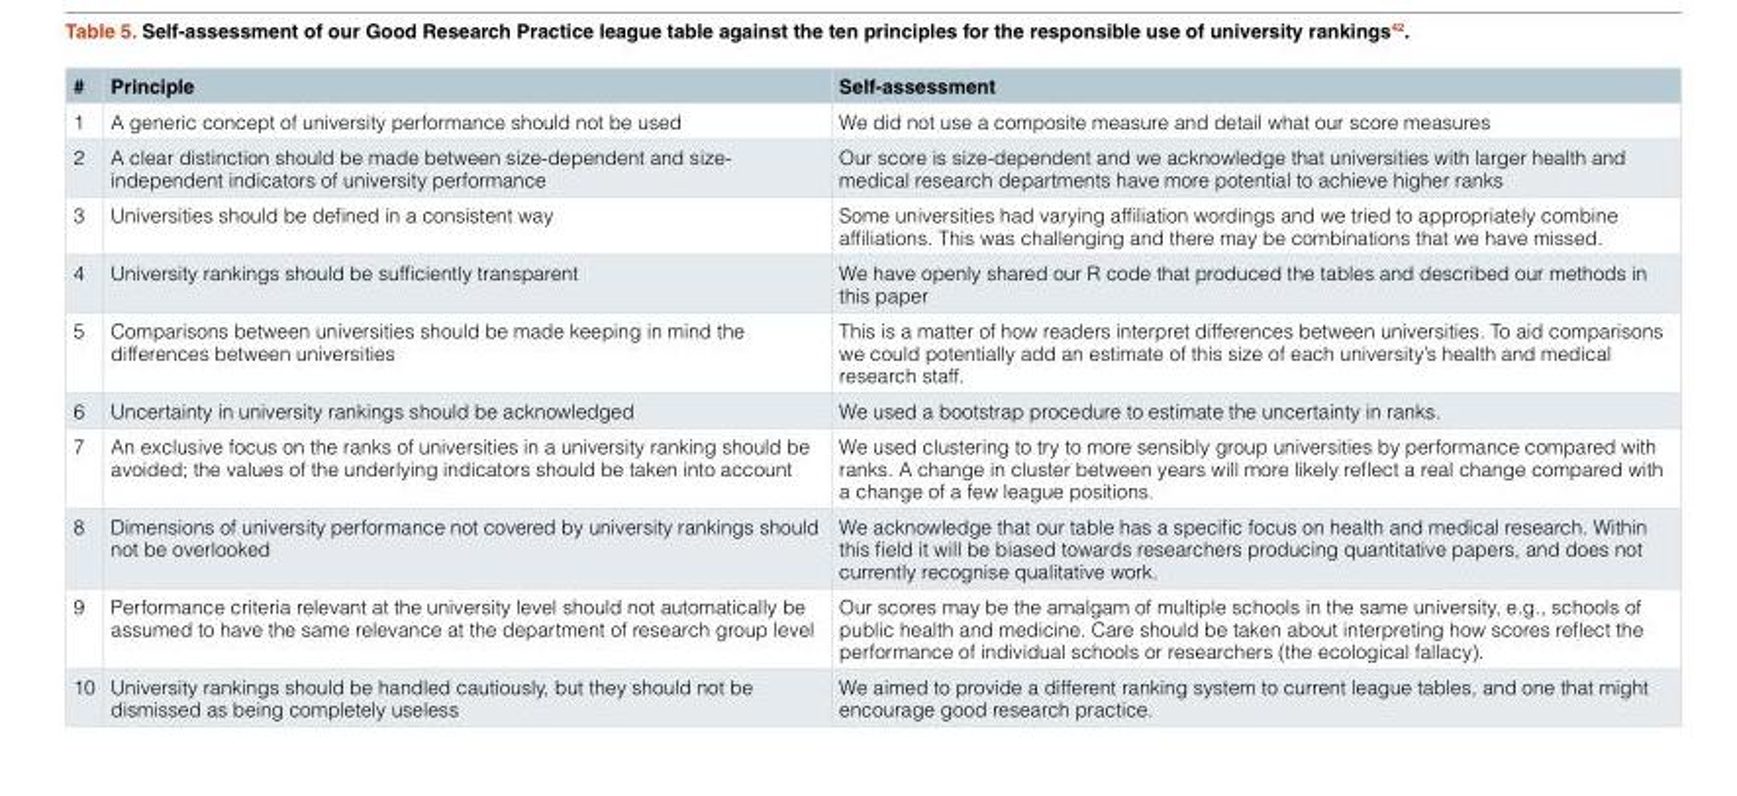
<table><thead><tr><td>#</td><td>Principle</td><td>Self-assessment</td></tr></thead><tbody><tr><td>1</td><td>A generic concept of university performance should not be used</td><td>We did not use a composite measure and detail what our score measures</td></tr><tr><td>2</td><td>A clear distinction should be made between size-dependent and size- independent indicators of university performance</td><td>Our score is size-dependent and we acknowledge that universities with larger health and medical research departments have more potential to achieve higher ranks</td></tr><tr><td>3</td><td>Universities should be defined in a consistent way</td><td>Some universities had varying affiliation wordings and we tried to appropriately combine affiliations. This was challenging and there may be combinations that we have missed.</td></tr><tr><td>4</td><td>University rankings should be sufficiently transparent</td><td>We have openly shared our R code that produced the tables and described our methods in this paper</td></tr><tr><td>5</td><td>Comparisons between universities should be made keeping in mind the differences between universities</td><td>This is a matter of how readers interpret differences between universities. To aid comparisons we could potentially add an estimate of this size of each university’s health and medical research staff.</td></tr><tr><td>6</td><td>Uncertainty in university rankings should be acknowledged</td><td>We used a bootstrap procedure to estimate the uncertainty in ranks.</td></tr><tr><td>7</td><td>An exclusive focus on the ranks of universities in a university ranking should be avoided; the values of the underlying indicators should be taken into account</td><td>We used clustering to try to more sensibly group universities by performance compared with ranks. A change in cluster between years will more likely reflect a real change compared with a change of a few league positions.</td></tr><tr><td>8</td><td>Dimensions of university performance not covered by university rankings should not be overlooked</td><td>We acknowledge that our table has a specific focus on health and medical research. Within this field it will be biased towards researchers producing quantitative papers, and does not currently recognise qualitative work.</td></tr><tr><td>9</td><td>Performance criteria relevant at the university level should not automatically be assumed to have the same relevance at the department of research group level</td><td>Our scores may be the amalgam of multiple schools in the same university, e.g., schools of public health and medicine. Care should be taken about interpreting how scores reflect the performance of individual schools or researchers (the ecological fallacy).</td></tr><tr><td>10</td><td>University rankings should be handled cautiously, but they should not be dismissed as being completely useless</td><td>We aimed to provide a different ranking system to current league tables, and one that might encourage good research practice.</td></tr></tbody></table>